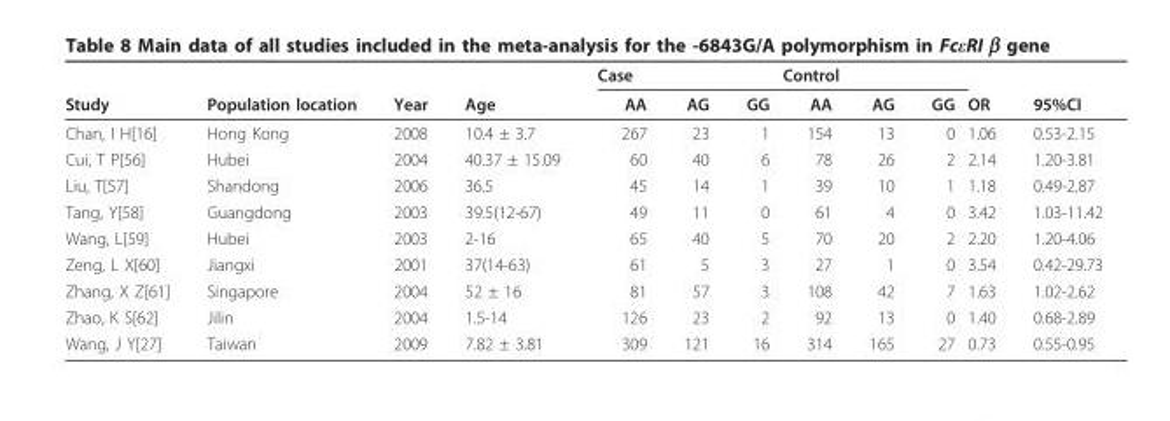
<table><thead><tr><td rowspan="2">Study</td><td rowspan="2">Population location</td><td rowspan="2">Year</td><td rowspan="2">Age</td><td colspan="3">Case</td><td colspan="3">Control</td><td rowspan="2">OR</td><td rowspan="2">95%CI</td></tr><tr><td>AA</td><td>AG</td><td>GG</td><td>AA</td><td>AG</td><td>GG</td></tr></thead><tbody><tr><td>Chan, I H[16]</td><td>Hong Kong</td><td>2008</td><td>10.4 ± 3.7</td><td>267</td><td>23</td><td>1</td><td>154</td><td>13</td><td>0</td><td>1.06</td><td>0.53-2.15</td></tr><tr><td>Cui, T P[56]</td><td>Hubei</td><td>2004</td><td>40.37 ± 15.09</td><td>60</td><td>40</td><td>6</td><td>78</td><td>26</td><td>2</td><td>2.14</td><td>1.20-3.81</td></tr><tr><td>Liu, T[57]</td><td>Shandong</td><td>2006</td><td>36.5</td><td>45</td><td>14</td><td>1</td><td>39</td><td>10</td><td>1</td><td>1.18</td><td>0.49-2.87</td></tr><tr><td>Tang, Y[58]</td><td>Guangdong</td><td>2003</td><td>39.5(12-67)</td><td>49</td><td>11</td><td>0</td><td>61</td><td>4</td><td>0</td><td>3.42</td><td>1.03-11.42</td></tr><tr><td>Wang, L[59]</td><td>Hubei</td><td>2003</td><td>2-16</td><td>65</td><td>40</td><td>5</td><td>70</td><td>20</td><td>2</td><td>2.20</td><td>1.20-4.06</td></tr><tr><td>Zeng, L X[60]</td><td>Jiangxi</td><td>2001</td><td>37(14-63)</td><td>61</td><td>5</td><td>3</td><td>27</td><td>1</td><td>0</td><td>3.54</td><td>0.42-29.73</td></tr><tr><td>Zhang, X Z[61]</td><td>Singapore</td><td>2004</td><td>52 ± 16</td><td>81</td><td>57</td><td>3</td><td>108</td><td>42</td><td>7</td><td>1.63</td><td>1.02-2.62</td></tr><tr><td>Zhao, K S[62]</td><td>Jilin</td><td>2004</td><td>1.5-14</td><td>126</td><td>23</td><td>2</td><td>92</td><td>13</td><td>0</td><td>1.40</td><td>0.68-2.89</td></tr><tr><td>Wang, J Y[27]</td><td>Taiwan</td><td>2009</td><td>7.82 ± 3.81</td><td>309</td><td>121</td><td>16</td><td>314</td><td>165</td><td>27</td><td>0.73</td><td>0.55-0.95</td></tr></tbody></table>